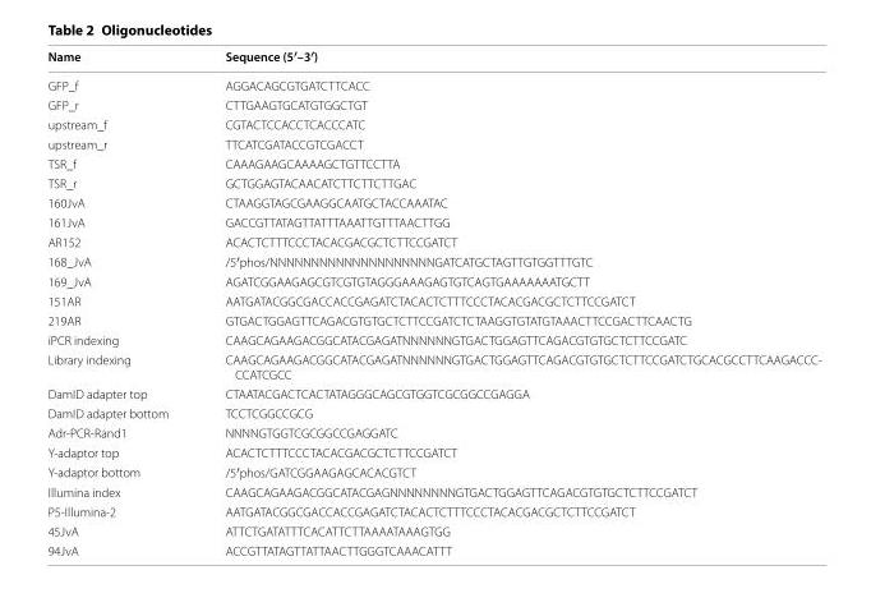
<table><thead><tr><td>Name</td><td>Sequence (5′–3′)</td></tr></thead><tbody><tr><td>GFP_f</td><td>AGGACAGCGTGATCTTCACC</td></tr><tr><td>GFP_r</td><td>CTTGAAGTGCATGTGGCTGT</td></tr><tr><td>upstream_f</td><td>CGTACTCCACCTCACCCATC</td></tr><tr><td>upstream_r</td><td>TTCATCGATACCGTCGACCT</td></tr><tr><td>TSR_f</td><td>CAAAGAAGCAAAAGCTGTTCCTTA</td></tr><tr><td>TSR_r</td><td>GCTGGAGTACAACATCTTCTTCTTGAC</td></tr><tr><td>160JvA</td><td>CTAAGGTAGCGAAGGCAATGCTACCAAATAC</td></tr><tr><td>161JvA</td><td>GACCGTTATAGTTATTTAAATTGTTTAACTTGG</td></tr><tr><td>AR152</td><td>ACACTCTTTCCCTACACGACGCTCTTCCGATCT</td></tr><tr><td>168_JvA</td><td>/5′phos/NNNNNNNNNNNNNNNNNNNNGATCATGCTAGTTGTGGTTTGTC</td></tr><tr><td>169_JvA</td><td>AGATCGGAAGAGCGTCGTGTAGGGAAAGAGTGTCAGTGAAAAAAATGCTT</td></tr><tr><td>151AR</td><td>AATGATACGGCGACCACCGAGATCTACACTCTTTCCCTACACGACGCTCTTCCGATCT</td></tr><tr><td>219AR</td><td>GTGACTGGAGTTCAGACGTGTGCTCTTCCGATCTCTAAGGTGTATGTAAACTTCCGACTTCAACTG</td></tr><tr><td>iPCR indexing</td><td>CAAGCAGAAGACGGCATACGAGATNNNNNNGTGACTGGAGTTCAGACGTGTGCTCTTCCGATC</td></tr><tr><td>Library indexing</td><td>CAAGCAGAAGACGGCATACGAGATNNNNNNGTGACTGGAGTTCAGACGTGTGCTCTTCCGATCTGCACGCCTTCAAGACCC- CCATCGCC</td></tr><tr><td>DamID adapter top</td><td>CTAATACGACTCACTATAGGGCAGCGTGGTCGCGGCCGAGGA</td></tr><tr><td>DamID adapter bottom</td><td>TCCTCGGCCGCG</td></tr><tr><td>Adr-PCR-Rand1</td><td>NNNNGTGGTCGCGGCCGAGGATC</td></tr><tr><td>Y-adaptor top</td><td>ACACTCTTTCCCTACACGACGCTCTTCCGATCT</td></tr><tr><td>Y-adaptor bottom</td><td>/5′phos/GATCGGAAGAGCACACGTCT</td></tr><tr><td>Illumina index</td><td>CAAGCAGAAGACGGCATACGAGNNNNNNNNGTGACTGGAGTTCAGACGTGTGCTCTTCCGATCT</td></tr><tr><td>P5-Illumina-2</td><td>AATGATACGGCGACCACCGAGATCTACACTCTTTCCCTACACGACGCTCTTCCGATCT</td></tr><tr><td>45JvA</td><td>ATTCTGATATTTCACATTCTTAAAATAAAGTGG</td></tr><tr><td>94JvA</td><td>ACCGTTATAGTTATTAACTTGGGTCAAACATTT</td></tr></tbody></table>